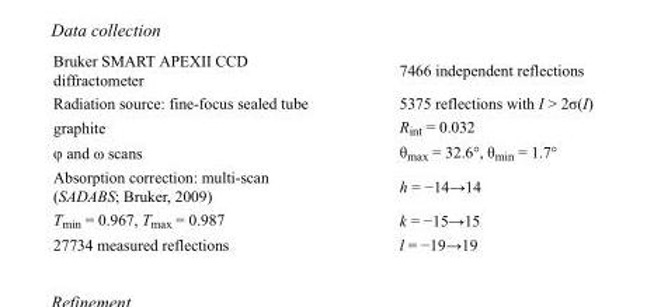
<table><tbody><tr><td>Bruker SMART APEXII CCD diffractometer</td><td>7466 independent reflections</td></tr><tr><td>Radiation source: fine-focus sealed tube</td><td>5375 reflections with I &gt; 2σ(I)</td></tr><tr><td>graphite</td><td>R<sub>int</sub> = 0.032</td></tr><tr><td>φ and ω scans</td><td>θ<sub>max</sub> = 32.6°, θ<sub>min</sub> = 1.7°</td></tr><tr><td>Absorption correction: multi-scan (SADABS; Bruker, 2009)</td><td>h = −14→14</td></tr><tr><td>T<sub>min</sub> = 0.967, T<sub>max</sub> = 0.987</td><td>k = −15→15</td></tr><tr><td>27734 measured reflections</td><td>l = −19→19</td></tr></tbody></table>